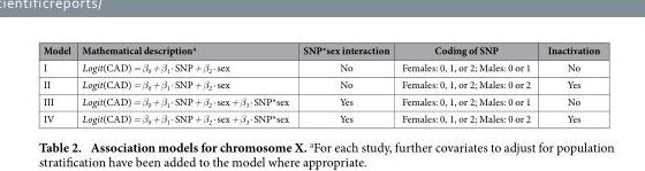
<table><thead><tr><td>Model</td><td>Mathematical description<sup>a</sup></td><td>SNP*sex interaction</td><td>Coding of SNP</td><td>Inactivation</td></tr></thead><tbody><tr><td>I</td><td>Logit(CAD) = β<sub>0</sub> + β<sub>1</sub> · SNP + β<sub>2</sub> · sex</td><td>No</td><td>Females: 0, 1, or 2; Males: 0 or 1</td><td>No</td></tr><tr><td>II</td><td>Logit(CAD) = β<sub>0</sub> + β<sub>1</sub> · SNP + β<sub>2</sub> · sex</td><td>No</td><td>Females: 0, 1, or 2; Males: 0 or 2</td><td>Yes</td></tr><tr><td>III</td><td>Logit(CAD) = β<sub>0</sub> + β<sub>1</sub> · SNP + β<sub>2</sub> · sex + β<sub>3</sub> · SNP*sex</td><td>Yes</td><td>Females: 0, 1, or 2; Males: 0 or 1</td><td>No</td></tr><tr><td>IV</td><td>Logit(CAD) = β<sub>0</sub> + β<sub>1</sub> · SNP + β<sub>2</sub> · sex + β<sub>3</sub> · SNP*sex</td><td>Yes</td><td>Females: 0, 1, or 2; Males: 0 or 2</td><td>Yes</td></tr></tbody></table>